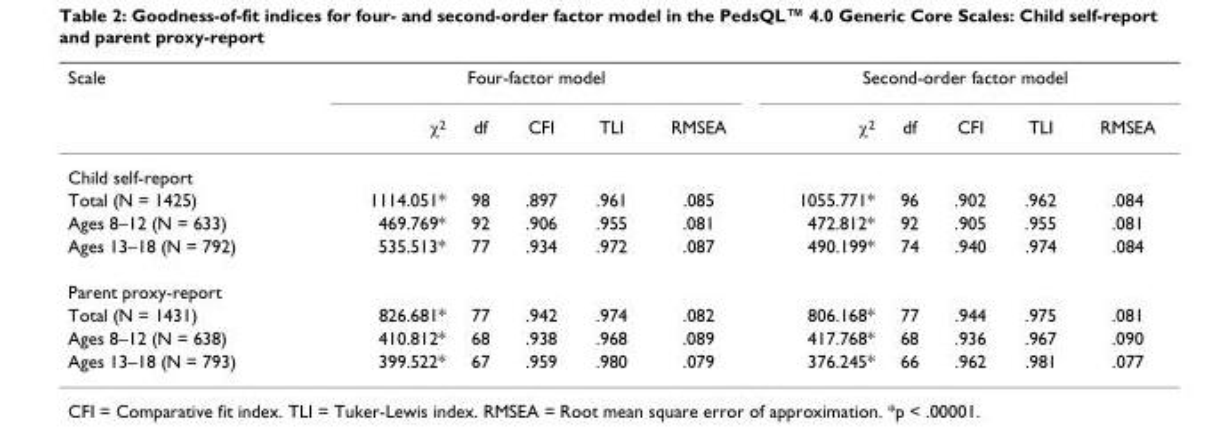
<table><thead><tr><td rowspan="2">Scale</td><td colspan="5">Four-factor model</td><td colspan="5">Second-order factor model</td></tr><tr><td>χ<sup>2</sup></td><td>df</td><td>CFI</td><td>TLI</td><td>RMSEA</td><td>χ<sup>2</sup></td><td>df</td><td>CFI</td><td>TLI</td><td>RMSEA</td></tr></thead><tbody><tr><td colspan="11">Child self-report</td></tr><tr><td>Total (N = 1425)</td><td>1114.051*</td><td>98</td><td>.897</td><td>.961</td><td>.085</td><td>1055.771*</td><td>96</td><td>.902</td><td>.962</td><td>.084</td></tr><tr><td>Ages 8–12 (N = 633)</td><td>469.769*</td><td>92</td><td>.906</td><td>.955</td><td>.081</td><td>472.812*</td><td>92</td><td>.905</td><td>.955</td><td>.081</td></tr><tr><td>Ages 13–18 (N = 792)</td><td>535.513*</td><td>77</td><td>.934</td><td>.972</td><td>.087</td><td>490.199*</td><td>74</td><td>.940</td><td>.974</td><td>.084</td></tr><tr><td colspan="11">Parent proxy-report</td></tr><tr><td>Total (N = 1431)</td><td>826.681*</td><td>77</td><td>.942</td><td>.974</td><td>.082</td><td>806.168*</td><td>77</td><td>.944</td><td>.975</td><td>.081</td></tr><tr><td>Ages 8–12 (N = 638)</td><td>410.812*</td><td>68</td><td>.938</td><td>.968</td><td>.089</td><td>417.768*</td><td>68</td><td>.936</td><td>.967</td><td>.090</td></tr><tr><td>Ages 13–18 (N = 793)</td><td>399.522*</td><td>67</td><td>.959</td><td>.980</td><td>.079</td><td>376.245*</td><td>66</td><td>.962</td><td>.981</td><td>.077</td></tr></tbody></table>